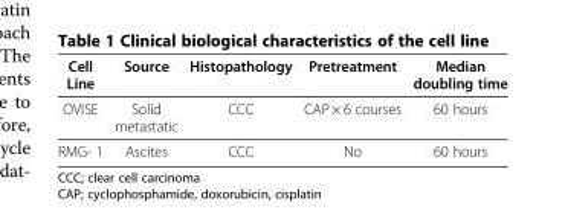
<table><thead><tr><td>Cell Line</td><td>Source</td><td>Histopathology</td><td>Pretreatment</td><td>Median doubling time</td></tr></thead><tbody><tr><td>OVISE</td><td>Solid metastatic</td><td>CCC</td><td>CAP × 6 courses</td><td>60 hours</td></tr><tr><td>RMG- 1</td><td>Ascites</td><td>CCC</td><td>No</td><td>60 hours</td></tr></tbody></table>